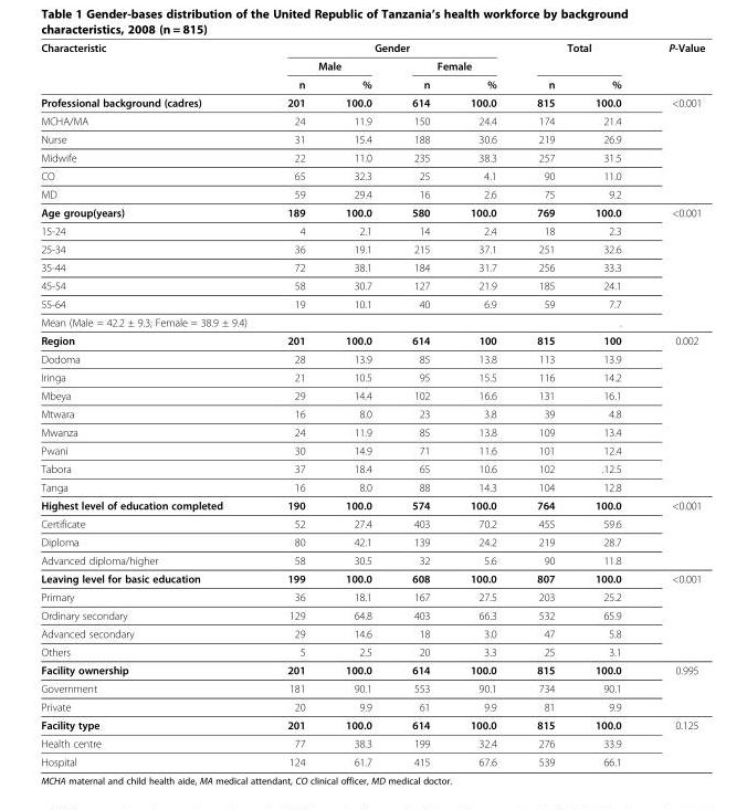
<table><thead><tr><td rowspan="3">Characteristic</td><td rowspan="3">n</td><td rowspan="3">Male %</td><td rowspan="3">Gender n</td><td rowspan="3">Female %</td><td rowspan="3">n</td><td rowspan="3">Total %</td><td rowspan="3">P-Value</td></tr><tr></tr><tr></tr></thead><tbody><tr><td>Professional background (cadres)</td><td>201</td><td>100.0</td><td>614</td><td>100.0</td><td>815</td><td>100.0</td><td rowspan="6">&lt;0.001</td></tr><tr><td>MCHA/MA</td><td>24</td><td>11.9</td><td>150</td><td>24.4</td><td>174</td><td>21.4</td></tr><tr><td>Nurse</td><td>31</td><td>15.4</td><td>188</td><td>30.6</td><td>219</td><td>26.9</td></tr><tr><td>Midwife</td><td>22</td><td>11.0</td><td>235</td><td>38.3</td><td>257</td><td>31.5</td></tr><tr><td>CO</td><td>65</td><td>32.3</td><td>25</td><td>4.1</td><td>90</td><td>11.0</td></tr><tr><td>MD</td><td>59</td><td>29.4</td><td>16</td><td>2.6</td><td>75</td><td>9.2</td></tr><tr><td>Age group(years)</td><td>189</td><td>100.0</td><td>580</td><td>100.0</td><td>769</td><td>100.0</td><td>&lt;0.001</td></tr><tr><td>15-24</td><td>4</td><td>2.1</td><td>14</td><td>2.4</td><td>18</td><td>2.3</td><td></td></tr><tr><td>25-34</td><td>36</td><td>19.1</td><td>215</td><td>37.1</td><td>251</td><td>32.6</td><td></td></tr><tr><td>35-44</td><td>72</td><td>38.1</td><td>184</td><td>31.7</td><td>256</td><td>33.3</td><td></td></tr><tr><td>45-54</td><td>58</td><td>30.7</td><td>127</td><td>21.9</td><td>185</td><td>24.1</td><td></td></tr><tr><td>55-64</td><td>19</td><td>10.1</td><td>40</td><td>6.9</td><td>59</td><td>7.7</td><td></td></tr><tr><td>Mean (Male = 42.2 ± 9.3; Female = 38.9 ± 9.4)</td><td></td><td></td><td></td><td></td><td></td><td>.</td><td></td></tr><tr><td>Region</td><td>201</td><td>100.0</td><td>614</td><td>100</td><td>815</td><td>100</td><td>0.002</td></tr><tr><td>Dodoma</td><td>28</td><td>13.9</td><td>85</td><td>13.8</td><td>113</td><td>13.9</td><td></td></tr><tr><td>Iringa</td><td>21</td><td>10.5</td><td>95</td><td>15.5</td><td>116</td><td>14.2</td><td></td></tr><tr><td>Mbeya</td><td>29</td><td>14.4</td><td>102</td><td>16.6</td><td>131</td><td>16.1</td><td></td></tr><tr><td>Mtwara</td><td>16</td><td>8.0</td><td>23</td><td>3.8</td><td>39</td><td>4.8</td><td></td></tr><tr><td>Mwanza</td><td>24</td><td>11.9</td><td>85</td><td>13.8</td><td>109</td><td>13.4</td><td></td></tr><tr><td>Pwani</td><td>30</td><td>14.9</td><td>71</td><td>11.6</td><td>101</td><td>12.4</td><td></td></tr><tr><td>Tabora</td><td>37</td><td>18.4</td><td>65</td><td>10.6</td><td>102</td><td>.12.5</td><td></td></tr><tr><td>Tanga</td><td>16</td><td>8.0</td><td>88</td><td>14.3</td><td>104</td><td>12.8</td><td></td></tr><tr><td>Highest level of education completed</td><td>190</td><td>100.0</td><td>574</td><td>100.0</td><td>764</td><td>100.0</td><td rowspan="4">&lt;0.001</td></tr><tr><td>Certificate</td><td>52</td><td>27.4</td><td>403</td><td>70.2</td><td>455</td><td>59.6</td></tr><tr><td>Diploma</td><td>80</td><td>42.1</td><td>139</td><td>24.2</td><td>219</td><td>28.7</td></tr><tr><td>Advanced diploma/higher</td><td>58</td><td>30.5</td><td>32</td><td>5.6</td><td>90</td><td>11.8</td></tr><tr><td>Leaving level for basic education</td><td>199</td><td>100.0</td><td>608</td><td>100.0</td><td>807</td><td>100.0</td><td rowspan="5">&lt;0.001</td></tr><tr><td>Primary</td><td>36</td><td>18.1</td><td>167</td><td>27.5</td><td>203</td><td>25.2</td></tr><tr><td>Ordinary secondary</td><td>129</td><td>64.8</td><td>403</td><td>66.3</td><td>532</td><td>65.9</td></tr><tr><td>Advanced secondary</td><td>29</td><td>14.6</td><td>18</td><td>3.0</td><td>47</td><td>5.8</td></tr><tr><td>Others</td><td>5</td><td>2.5</td><td>20</td><td>3.3</td><td>25</td><td>3.1</td></tr><tr><td>Facility ownership</td><td>201</td><td>100.0</td><td>614</td><td>100.0</td><td>815</td><td>100.0</td><td>0.995</td></tr><tr><td>Government</td><td>181</td><td>90.1</td><td>553</td><td>90.1</td><td>734</td><td>90.1</td><td></td></tr><tr><td>Private</td><td>20</td><td>9.9</td><td>61</td><td>9.9</td><td>81</td><td>9.9</td><td></td></tr><tr><td>Facility type</td><td>201</td><td>100.0</td><td>614</td><td>100.0</td><td>815</td><td>100.0</td><td rowspan="3">0.125</td></tr><tr><td>Health centre</td><td>77</td><td>38.3</td><td>199</td><td>32.4</td><td>276</td><td>33.9</td></tr><tr><td>Hospital</td><td>124</td><td>61.7</td><td>415</td><td>67.6</td><td>539</td><td>66.1</td></tr></tbody></table>